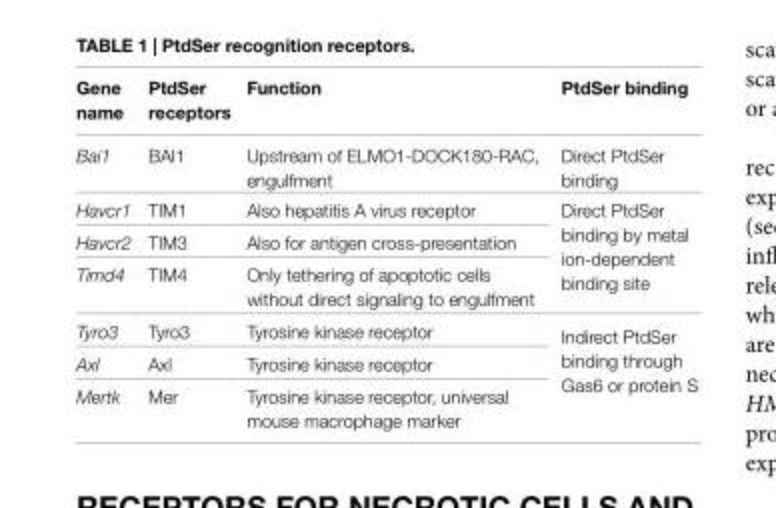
<table><thead><tr><td>Gene name</td><td>PtdSer receptors</td><td>Function</td><td>PtdSer binding</td></tr></thead><tbody><tr><td>Bai1</td><td>BAI1</td><td>Upstream of ELMO1-DOCK180-RAC, engulfment</td><td>Direct PtdSer binding</td></tr><tr><td>Havcr1</td><td>TIM1</td><td>Also hepatitis A virus receptor</td><td rowspan="3">Direct PtdSer binding by metal ion-dependent binding site</td></tr><tr><td>Havcr2</td><td>TIM3</td><td>Also for antigen cross-presentation</td></tr><tr><td>Timd4</td><td>TIM4</td><td>Only tethering of apoptotic cells without direct signaling to engulfment</td></tr><tr><td>Tyro3</td><td>Tyro3</td><td>Tyrosine kinase receptor</td><td rowspan="3">Indirect PtdSer binding through Gas6 or protein S</td></tr><tr><td>Axl</td><td>Axl</td><td>Tyrosine kinase receptor</td></tr><tr><td>Mertk</td><td>Mer</td><td>Tyrosine kinase receptor, universal mouse macrophage marker</td></tr></tbody></table>